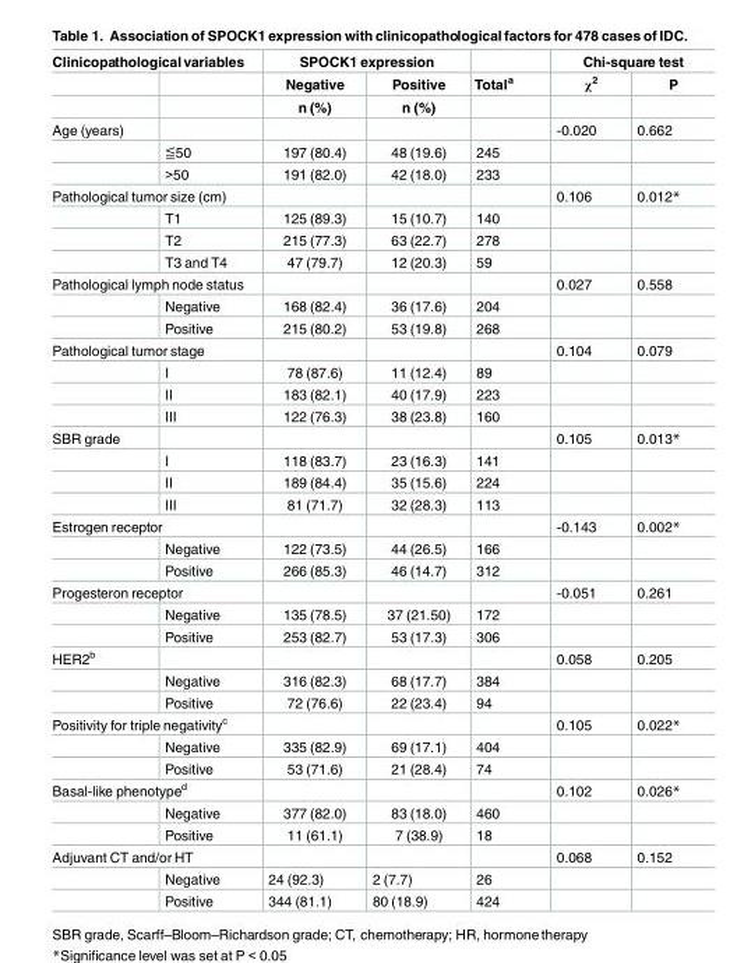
<table><thead><tr><td colspan="2">Clinicopathological variables</td><td colspan="2">SPOCK1 expression</td><td rowspan="3">Total<sup>a</sup></td><td colspan="2">Chi-square test</td></tr><tr><td rowspan="2"></td><td rowspan="2"></td><td rowspan="2">Negative n (%)</td><td rowspan="2">Positive n (%)</td><td rowspan="2">χ<sup>2</sup></td><td rowspan="2">P</td></tr><tr></tr></thead><tbody><tr><td rowspan="3">Age (years)</td><td></td><td></td><td></td><td></td><td>-0.020</td><td>0.662</td></tr><tr><td>≦50</td><td>197 (80.4)</td><td>48 (19.6)</td><td>245</td><td></td><td></td></tr><tr><td>&gt;50</td><td>191 (82.0)</td><td>42 (18.0)</td><td>233</td><td></td><td></td></tr><tr><td colspan="2">Pathological tumor size (cm)</td><td></td><td></td><td></td><td>0.106</td><td>0.012*</td></tr><tr><td></td><td>T1</td><td>125 (89.3)</td><td>15 (10.7)</td><td>140</td><td></td><td></td></tr><tr><td></td><td>T2</td><td>215 (77.3)</td><td>63 (22.7)</td><td>278</td><td></td><td></td></tr><tr><td></td><td>T3 and T4</td><td>47 (79.7)</td><td>12 (20.3)</td><td>59</td><td></td><td></td></tr><tr><td colspan="2">Pathological lymph node status</td><td></td><td></td><td></td><td>0.027</td><td>0.558</td></tr><tr><td></td><td>Negative</td><td>168 (82.4)</td><td>36 (17.6)</td><td>204</td><td></td><td></td></tr><tr><td></td><td>Positive</td><td>215 (80.2)</td><td>53 (19.8)</td><td>268</td><td></td><td></td></tr><tr><td colspan="2">Pathological tumor stage</td><td></td><td></td><td></td><td>0.104</td><td>0.079</td></tr><tr><td></td><td>I</td><td>78 (87.6)</td><td>11 (12.4)</td><td>89</td><td></td><td></td></tr><tr><td></td><td>II</td><td>183 (82.1)</td><td>40 (17.9)</td><td>223</td><td></td><td></td></tr><tr><td></td><td>III</td><td>122 (76.3)</td><td>38 (23.8)</td><td>160</td><td></td><td></td></tr><tr><td rowspan="4">SBR grade</td><td></td><td></td><td></td><td></td><td>0.105</td><td>0.013*</td></tr><tr><td>I</td><td>118 (83.7)</td><td>23 (16.3)</td><td>141</td><td></td><td></td></tr><tr><td>II</td><td>189 (84.4)</td><td>35 (15.6)</td><td>224</td><td></td><td></td></tr><tr><td>III</td><td>81 (71.7)</td><td>32 (28.3)</td><td>113</td><td></td><td></td></tr><tr><td colspan="2">Estrogen receptor</td><td></td><td></td><td></td><td>-0.143</td><td>0.002*</td></tr><tr><td></td><td>Negative</td><td>122 (73.5)</td><td>44 (26.5)</td><td>166</td><td></td><td></td></tr><tr><td></td><td>Positive</td><td>266 (85.3)</td><td>46 (14.7)</td><td>312</td><td></td><td></td></tr><tr><td colspan="2">Progesteron receptor</td><td></td><td></td><td></td><td>-0.051</td><td>0.261</td></tr><tr><td></td><td>Negative</td><td>135 (78.5)</td><td>37 (21.50)</td><td>172</td><td></td><td></td></tr><tr><td></td><td>Positive</td><td>253 (82.7)</td><td>53 (17.3)</td><td>306</td><td></td><td></td></tr><tr><td rowspan="3">HER2<sup>b</sup></td><td></td><td></td><td></td><td></td><td>0.058</td><td>0.205</td></tr><tr><td>Negative</td><td>316 (82.3)</td><td>68 (17.7)</td><td>384</td><td></td><td></td></tr><tr><td>Positive</td><td>72 (76.6)</td><td>22 (23.4)</td><td>94</td><td></td><td></td></tr><tr><td colspan="2">Positivity for triple negativity<sup>c</sup></td><td></td><td></td><td></td><td>0.105</td><td>0.022*</td></tr><tr><td></td><td>Negative</td><td>335 (82.9)</td><td>69 (17.1)</td><td>404</td><td></td><td></td></tr><tr><td></td><td>Positive</td><td>53 (71.6)</td><td>21 (28.4)</td><td>74</td><td></td><td></td></tr><tr><td colspan="2">Basal-like phenotype<sup>d</sup></td><td></td><td></td><td></td><td>0.102</td><td>0.026*</td></tr><tr><td></td><td>Negative</td><td>377 (82.0)</td><td>83 (18.0)</td><td>460</td><td></td><td></td></tr><tr><td></td><td>Positive</td><td>11 (61.1)</td><td>7 (38.9)</td><td>18</td><td></td><td></td></tr><tr><td colspan="2">Adjuvant CT and/or HT</td><td></td><td></td><td></td><td>0.068</td><td>0.152</td></tr><tr><td></td><td>Negative</td><td>24 (92.3)</td><td>2 (7.7)</td><td>26</td><td></td><td></td></tr><tr><td></td><td>Positive</td><td>344 (81.1)</td><td>80 (18.9)</td><td>424</td><td></td><td></td></tr></tbody></table>